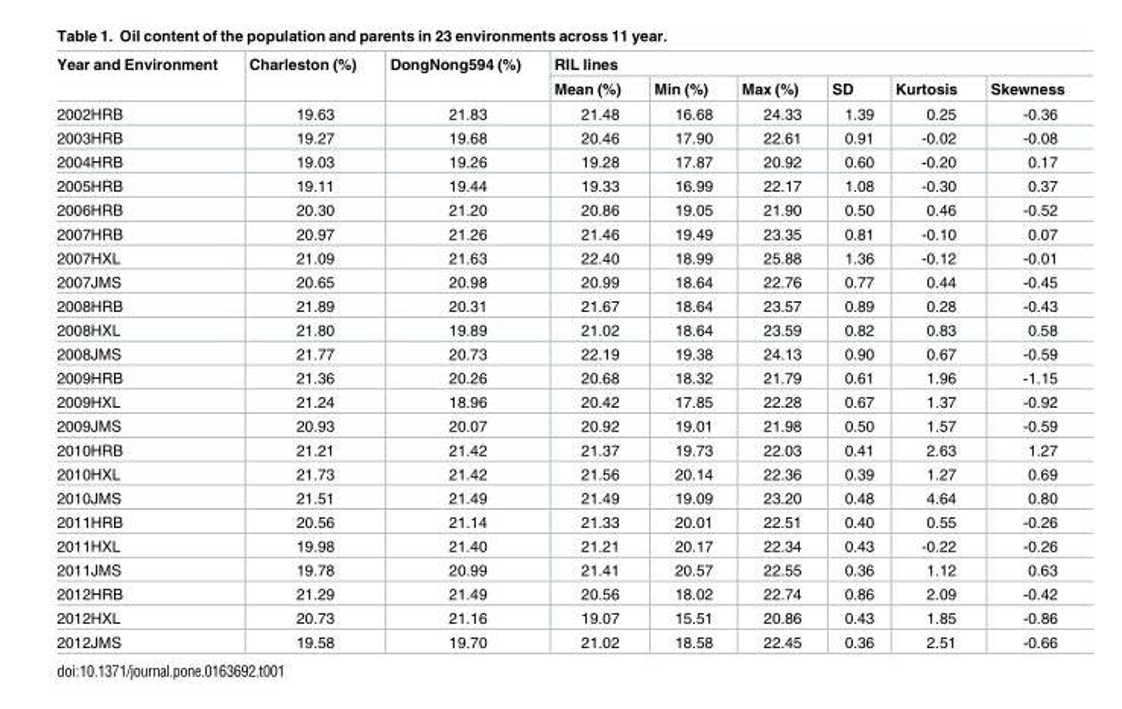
<table><thead><tr><td rowspan="2">Year and Environment</td><td rowspan="2">Charleston (%)</td><td rowspan="2">DongNong594 (%)</td><td colspan="6">RIL lines</td></tr><tr><td>Mean (%)</td><td>Min (%)</td><td>Max (%)</td><td>SD</td><td>Kurtosis</td><td>Skewness</td></tr></thead><tbody><tr><td>2002HRB</td><td>19.63</td><td>21.83</td><td>21.48</td><td>16.68</td><td>24.33</td><td>1.39</td><td>0.25</td><td>-0.36</td></tr><tr><td>2003HRB</td><td>19.27</td><td>19.68</td><td>20.46</td><td>17.90</td><td>22.61</td><td>0.91</td><td>-0.02</td><td>-0.08</td></tr><tr><td>2004HRB</td><td>19.03</td><td>19.26</td><td>19.28</td><td>17.87</td><td>20.92</td><td>0.60</td><td>-0.20</td><td>0.17</td></tr><tr><td>2005HRB</td><td>19.11</td><td>19.44</td><td>19.33</td><td>16.99</td><td>22.17</td><td>1.08</td><td>-0.30</td><td>0.37</td></tr><tr><td>2006HRB</td><td>20.30</td><td>21.20</td><td>20.86</td><td>19.05</td><td>21.90</td><td>0.50</td><td>0.46</td><td>-0.52</td></tr><tr><td>2007HRB</td><td>20.97</td><td>21.26</td><td>21.46</td><td>19.49</td><td>23.35</td><td>0.81</td><td>-0.10</td><td>0.07</td></tr><tr><td>2007HXL</td><td>21.09</td><td>21.63</td><td>22.40</td><td>18.99</td><td>25.88</td><td>1.36</td><td>-0.12</td><td>-0.01</td></tr><tr><td>2007JMS</td><td>20.65</td><td>20.98</td><td>20.99</td><td>18.64</td><td>22.76</td><td>0.77</td><td>0.44</td><td>-0.45</td></tr><tr><td>2008HRB</td><td>21.89</td><td>20.31</td><td>21.67</td><td>18.64</td><td>23.57</td><td>0.89</td><td>0.28</td><td>-0.43</td></tr><tr><td>2008HXL</td><td>21.80</td><td>19.89</td><td>21.02</td><td>18.64</td><td>23.59</td><td>0.82</td><td>0.83</td><td>0.58</td></tr><tr><td>2008JMS</td><td>21.77</td><td>20.73</td><td>22.19</td><td>19.38</td><td>24.13</td><td>0.90</td><td>0.67</td><td>-0.59</td></tr><tr><td>2009HRB</td><td>21.36</td><td>20.26</td><td>20.68</td><td>18.32</td><td>21.79</td><td>0.61</td><td>1.96</td><td>-1.15</td></tr><tr><td>2009HXL</td><td>21.24</td><td>18.96</td><td>20.42</td><td>17.85</td><td>22.28</td><td>0.67</td><td>1.37</td><td>-0.92</td></tr><tr><td>2009JMS</td><td>20.93</td><td>20.07</td><td>20.92</td><td>19.01</td><td>21.98</td><td>0.50</td><td>1.57</td><td>-0.59</td></tr><tr><td>2010HRB</td><td>21.21</td><td>21.42</td><td>21.37</td><td>19.73</td><td>22.03</td><td>0.41</td><td>2.63</td><td>1.27</td></tr><tr><td>2010HXL</td><td>21.73</td><td>21.42</td><td>21.56</td><td>20.14</td><td>22.36</td><td>0.39</td><td>1.27</td><td>0.69</td></tr><tr><td>2010JMS</td><td>21.51</td><td>21.49</td><td>21.49</td><td>19.09</td><td>23.20</td><td>0.48</td><td>4.64</td><td>0.80</td></tr><tr><td>2011HRB</td><td>20.56</td><td>21.14</td><td>21.33</td><td>20.01</td><td>22.51</td><td>0.40</td><td>0.55</td><td>-0.26</td></tr><tr><td>2011HXL</td><td>19.98</td><td>21.40</td><td>21.21</td><td>20.17</td><td>22.34</td><td>0.43</td><td>-0.22</td><td>-0.26</td></tr><tr><td>2011JMS</td><td>19.78</td><td>20.99</td><td>21.41</td><td>20.57</td><td>22.55</td><td>0.36</td><td>1.12</td><td>0.63</td></tr><tr><td>2012HRB</td><td>21.29</td><td>21.49</td><td>20.56</td><td>18.02</td><td>22.74</td><td>0.86</td><td>2.09</td><td>-0.42</td></tr><tr><td>2012HXL</td><td>20.73</td><td>21.16</td><td>19.07</td><td>15.51</td><td>20.86</td><td>0.43</td><td>1.85</td><td>-0.86</td></tr><tr><td>2012JMS</td><td>19.58</td><td>19.70</td><td>21.02</td><td>18.58</td><td>22.45</td><td>0.36</td><td>2.51</td><td>-0.66</td></tr></tbody></table>